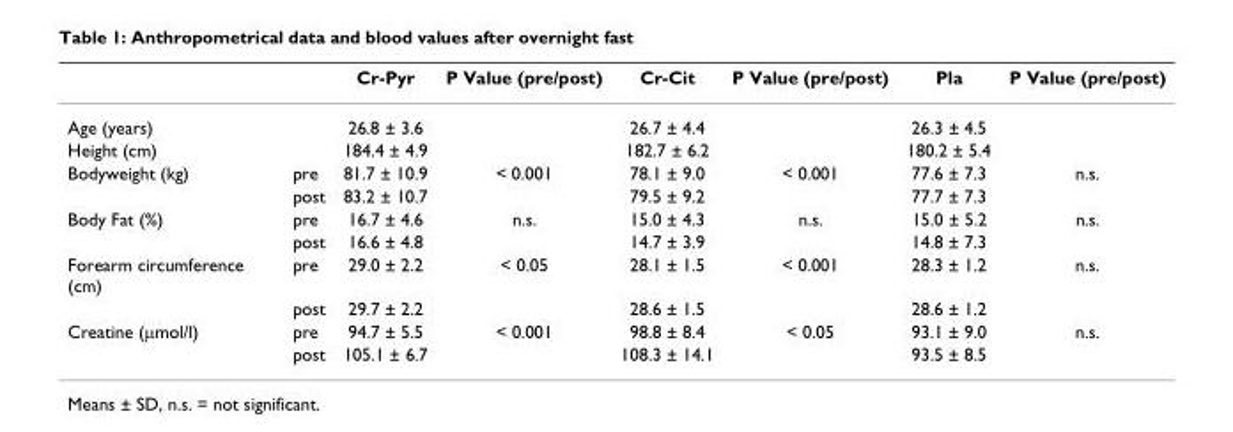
<table><thead><tr><td></td><td></td><td>Cr-Pyr</td><td>P Value (pre/post)</td><td>Cr-Cit</td><td>P Value (pre/post)</td><td>Pla</td><td>P Value (pre/post)</td></tr></thead><tbody><tr><td>Age (years)</td><td></td><td>26.8 ± 3.6</td><td></td><td>26.7 ± 4.4</td><td></td><td>26.3 ± 4.5</td><td></td></tr><tr><td>Height (cm)</td><td></td><td>184.4 ± 4.9</td><td></td><td>182.7 ± 6.2</td><td></td><td>180.2 ± 5.4</td><td></td></tr><tr><td rowspan="2">Bodyweight (kg)</td><td>pre</td><td>81.7 ± 10.9</td><td>&lt; 0.001</td><td>78.1 ± 9.0</td><td>&lt; 0.001</td><td>77.6 ± 7.3</td><td>n.s.</td></tr><tr><td>post</td><td>83.2 ± 10.7</td><td></td><td>79.5 ± 9.2</td><td></td><td>77.7 ± 7.3</td><td></td></tr><tr><td rowspan="2">Body Fat (%)</td><td>pre</td><td>16.7 ± 4.6</td><td>n.s.</td><td>15.0 ± 4.3</td><td>n.s.</td><td>15.0 ± 5.2</td><td>n.s.</td></tr><tr><td>post</td><td>16.6 ± 4.8</td><td></td><td>14.7 ± 3.9</td><td></td><td>14.8 ± 7.3</td><td></td></tr><tr><td rowspan="2">Forearm circumference (cm)</td><td>pre</td><td>29.0 ± 2.2</td><td>&lt; 0.05</td><td>28.1 ± 1.5</td><td>&lt; 0.001</td><td>28.3 ± 1.2</td><td>n.s.</td></tr><tr><td>post</td><td>29.7 ± 2.2</td><td></td><td>28.6 ± 1.5</td><td></td><td>28.6 ± 1.2</td><td></td></tr><tr><td rowspan="2">Creatine (µmol/l)</td><td>pre</td><td>94.7 ± 5.5</td><td>&lt; 0.001</td><td>98.8 ± 8.4</td><td>&lt; 0.05</td><td>93.1 ± 9.0</td><td>n.s.</td></tr><tr><td>post</td><td>105.1 ± 6.7</td><td></td><td>108.3 ± 14.1</td><td></td><td>93.5 ± 8.5</td><td></td></tr></tbody></table>